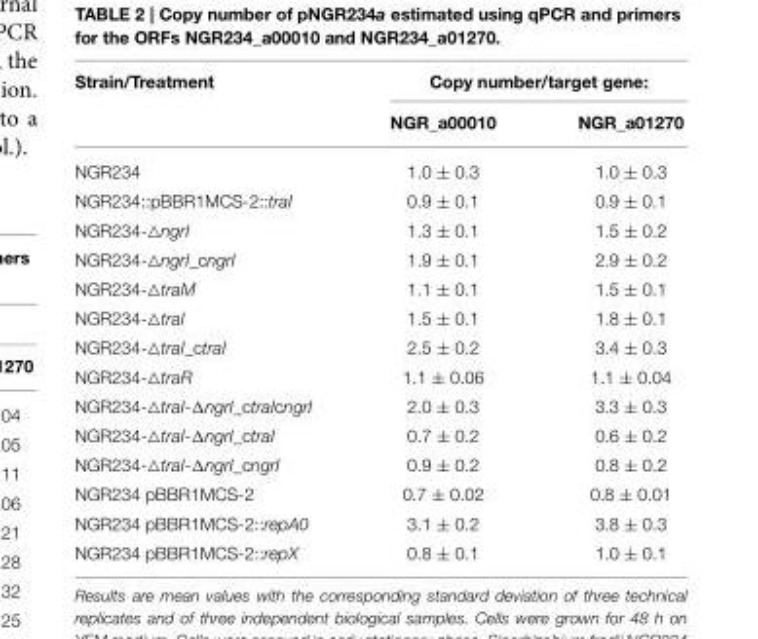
<table><thead><tr><td rowspan="2">Strain/Treatment</td><td colspan="2">Copy number/target gene:</td></tr><tr><td>NGR_a00010</td><td>NGR_a01270</td></tr></thead><tbody><tr><td>NGR234</td><td>1.0 ± 0.3</td><td>1.0 ± 0.3</td></tr><tr><td>NGR234::pBBR1MCS-2::traI</td><td>0.9 ± 0.1</td><td>0.9 ± 0.1</td></tr><tr><td>NGR234-△ngrI</td><td>1.3 ± 0.1</td><td>1.5 ± 0.2</td></tr><tr><td>NGR234-△ngrI_cngrI</td><td>1.9 ± 0.1</td><td>2.9 ± 0.2</td></tr><tr><td>NGR234-△traM</td><td>1.1 ± 0.1</td><td>1.5 ± 0.1</td></tr><tr><td>NGR234-△traI</td><td>1.5 ± 0.1</td><td>1.8 ± 0.1</td></tr><tr><td>NGR234-△traI_ctraI</td><td>2.5 ± 0.2</td><td>3.4 ± 0.3</td></tr><tr><td>NGR234-△traR</td><td>1.1 ± 0.06</td><td>1.1 ± 0.04</td></tr><tr><td>NGR234-△traI-�ngrI_ctraIcngrI</td><td>2.0 ± 0.3</td><td>3.3 ± 0.3</td></tr><tr><td>NGR234-△traI-�ngrI_ctraI</td><td>0.7 ± 0.2</td><td>0.6 ± 0.2</td></tr><tr><td>NGR234-△traI-�ngrI_cngrI</td><td>0.9 ± 0.2</td><td>0.8 ± 0.2</td></tr><tr><td>NGR234 pBBR1MCS-2</td><td>0.7 ± 0.02</td><td>0.8 ± 0.01</td></tr><tr><td>NGR234 pBBR1MCS-2::repA0</td><td>3.1 ± 0.2</td><td>3.8 ± 0.3</td></tr><tr><td>NGR234 pBBR1MCS-2::repX</td><td>0.8 ± 0.1</td><td>1.0 ± 0.1</td></tr></tbody></table>